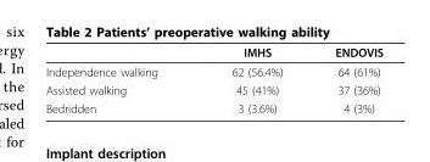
<table><thead><tr><td></td><td>IMHS</td><td>ENDOVIS</td></tr></thead><tbody><tr><td>Independence walking</td><td>62 (56.4%)</td><td>64 (61%)</td></tr><tr><td>Assisted walking</td><td>45 (41%)</td><td>37 (36%)</td></tr><tr><td>Bedridden</td><td>3 (3.6%)</td><td>4 (3%)</td></tr></tbody></table>